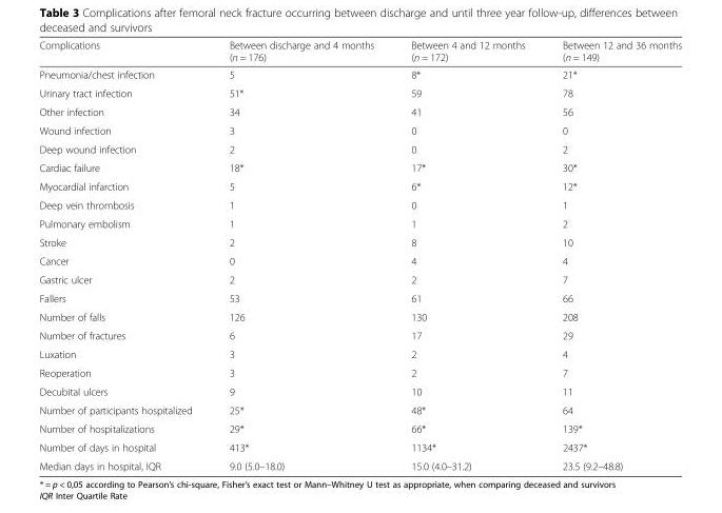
<table><thead><tr><td>Complications</td><td>Between discharge and 4 months (n = 176)</td><td>Between 4 and 12 months (n = 172)</td><td>Between 12 and 36 months (n = 149)</td></tr></thead><tbody><tr><td>Pneumonia/chest infection</td><td>5</td><td>8*</td><td>21*</td></tr><tr><td>Urinary tract infection</td><td>51*</td><td>59</td><td>78</td></tr><tr><td>Other infection</td><td>34</td><td>41</td><td>56</td></tr><tr><td>Wound infection</td><td>3</td><td>0</td><td>0</td></tr><tr><td>Deep wound infection</td><td>2</td><td>0</td><td>2</td></tr><tr><td>Cardiac failure</td><td>18*</td><td>17*</td><td>30*</td></tr><tr><td>Myocardial infarction</td><td>5</td><td>6*</td><td>12*</td></tr><tr><td>Deep vein thrombosis</td><td>1</td><td>0</td><td>1</td></tr><tr><td>Pulmonary embolism</td><td>1</td><td>1</td><td>2</td></tr><tr><td>Stroke</td><td>2</td><td>8</td><td>10</td></tr><tr><td>Cancer</td><td>0</td><td>4</td><td>4</td></tr><tr><td>Gastric ulcer</td><td>2</td><td>2</td><td>7</td></tr><tr><td>Fallers</td><td>53</td><td>61</td><td>66</td></tr><tr><td>Number of falls</td><td>126</td><td>130</td><td>208</td></tr><tr><td>Number of fractures</td><td>6</td><td>17</td><td>29</td></tr><tr><td>Luxation</td><td>3</td><td>2</td><td>4</td></tr><tr><td>Reoperation</td><td>3</td><td>2</td><td>7</td></tr><tr><td>Decubital ulcers</td><td>9</td><td>10</td><td>11</td></tr><tr><td>Number of participants hospitalized</td><td>25*</td><td>48*</td><td>64</td></tr><tr><td>Number of hospitalizations</td><td>29*</td><td>66*</td><td>139*</td></tr><tr><td>Number of days in hospital</td><td>413*</td><td>1134*</td><td>2437*</td></tr><tr><td>Median days in hospital, IQR</td><td>9.0 (5.0–18.0)</td><td>15.0 (4.0–31.2)</td><td>23.5 (9.2–48.8)</td></tr></tbody></table>